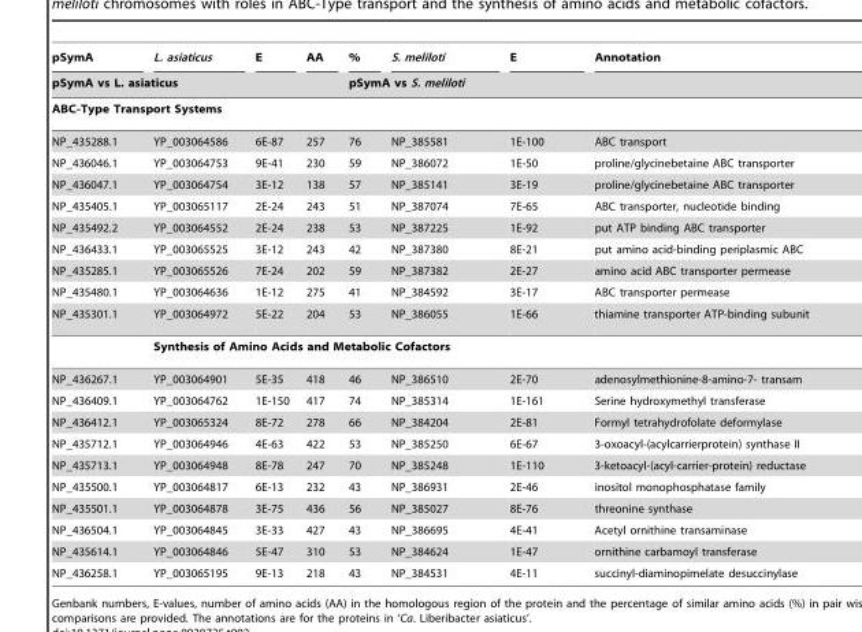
<table><thead><tr><td>pSymA</td><td>L. asiaticus</td><td>E</td><td>AA</td><td>%</td><td>S. meliloti</td><td>E</td><td>Annotation</td></tr><tr><td colspan="4">pSymA vs L. asiaticus</td><td colspan="4">pSymA vs S. meliloti</td></tr></thead><tbody><tr><td colspan="8">ABC-Type Transport Systems</td></tr><tr><td>NP_435288.1</td><td>YP_003064586</td><td>6E-87</td><td>257</td><td>76</td><td>NP_385581</td><td>1E-100</td><td>ABC transport</td></tr><tr><td>NP_436046.1</td><td>YP_003064753</td><td>9E-41</td><td>230</td><td>59</td><td>NP_386072</td><td>1E-50</td><td>proline/glycinebetaine ABC transporter</td></tr><tr><td>NP_436047.1</td><td>YP_003064754</td><td>3E-12</td><td>138</td><td>57</td><td>NP_385141</td><td>3E-19</td><td>proline/glycinebetaine ABC transporter</td></tr><tr><td>NP_435405.1</td><td>YP_003065117</td><td>2E-24</td><td>243</td><td>51</td><td>NP_387074</td><td>7E-65</td><td>ABC transporter, nucleotide binding</td></tr><tr><td>NP_435492.2</td><td>YP_003064552</td><td>2E-24</td><td>238</td><td>53</td><td>NP_387225</td><td>1E-92</td><td>put ATP binding ABC transporter</td></tr><tr><td>NP_436433.1</td><td>YP_003065525</td><td>3E-12</td><td>243</td><td>42</td><td>NP_387380</td><td>8E-21</td><td>put amino acid-binding periplasmic ABC</td></tr><tr><td>NP_435285.1</td><td>YP_003065526</td><td>7E-24</td><td>202</td><td>59</td><td>NP_387382</td><td>2E-27</td><td>amino acid ABC transporter permease</td></tr><tr><td>NP_435480.1</td><td>YP_003064636</td><td>1E-12</td><td>275</td><td>41</td><td>NP_384592</td><td>3E-17</td><td>ABC transporter permease</td></tr><tr><td rowspan="2">NP_435301.1</td><td>YP_003064972</td><td>5E-22</td><td>204</td><td>53</td><td>NP_386055</td><td>1E-66</td><td>thiamine transporter ATP-binding subunit</td></tr><tr><td colspan="7">Synthesis of Amino Acids and Metabolic Cofactors</td></tr><tr><td>NP_436267.1</td><td>YP_003064901</td><td>5E-35</td><td>418</td><td>46</td><td>NP_386510</td><td>2E-70</td><td>adenosylmethionine-8-amino-7- transam</td></tr><tr><td>NP_436409.1</td><td>YP_003064762</td><td>1E-150</td><td>417</td><td>74</td><td>NP_385314</td><td>1E-161</td><td>Serine hydroxymethyl transferase</td></tr><tr><td>NP_436412.1</td><td>YP_003065324</td><td>8E-72</td><td>278</td><td>66</td><td>NP_384204</td><td>2E-81</td><td>Formyl tetrahydrofolate deformylase</td></tr><tr><td>NP_435712.1</td><td>YP_003064946</td><td>4E-63</td><td>422</td><td>53</td><td>NP_385250</td><td>6E-67</td><td>3-oxoacyl-(acylcarrierprotein) synthase II</td></tr><tr><td>NP_435713.1</td><td>YP_003064948</td><td>8E-78</td><td>247</td><td>70</td><td>NP_385248</td><td>1E-110</td><td>3-ketoacyl-(acyl-carrier-protein) reductase</td></tr><tr><td>NP_435500.1</td><td>YP_003064817</td><td>6E-13</td><td>232</td><td>43</td><td>NP_386931</td><td>2E-46</td><td>inositol monophosphatase family</td></tr><tr><td>NP_435501.1</td><td>YP_003064878</td><td>3E-75</td><td>436</td><td>56</td><td>NP_385027</td><td>8E-76</td><td>threonine synthase</td></tr><tr><td>NP_436504.1</td><td>YP_003064845</td><td>3E-33</td><td>427</td><td>43</td><td>NP_386695</td><td>4E-41</td><td>Acetyl ornithine transaminase</td></tr><tr><td>NP_435614.1</td><td>YP_003064846</td><td>5E-47</td><td>310</td><td>53</td><td>NP_384624</td><td>1E-47</td><td>ornithine carbamoyl transferase</td></tr><tr><td>NP_436258.1</td><td>YP_003065195</td><td>9E-13</td><td>218</td><td>43</td><td>NP_384531</td><td>4E-11</td><td>succinyl-diaminopimelate desuccinylase</td></tr></tbody></table>